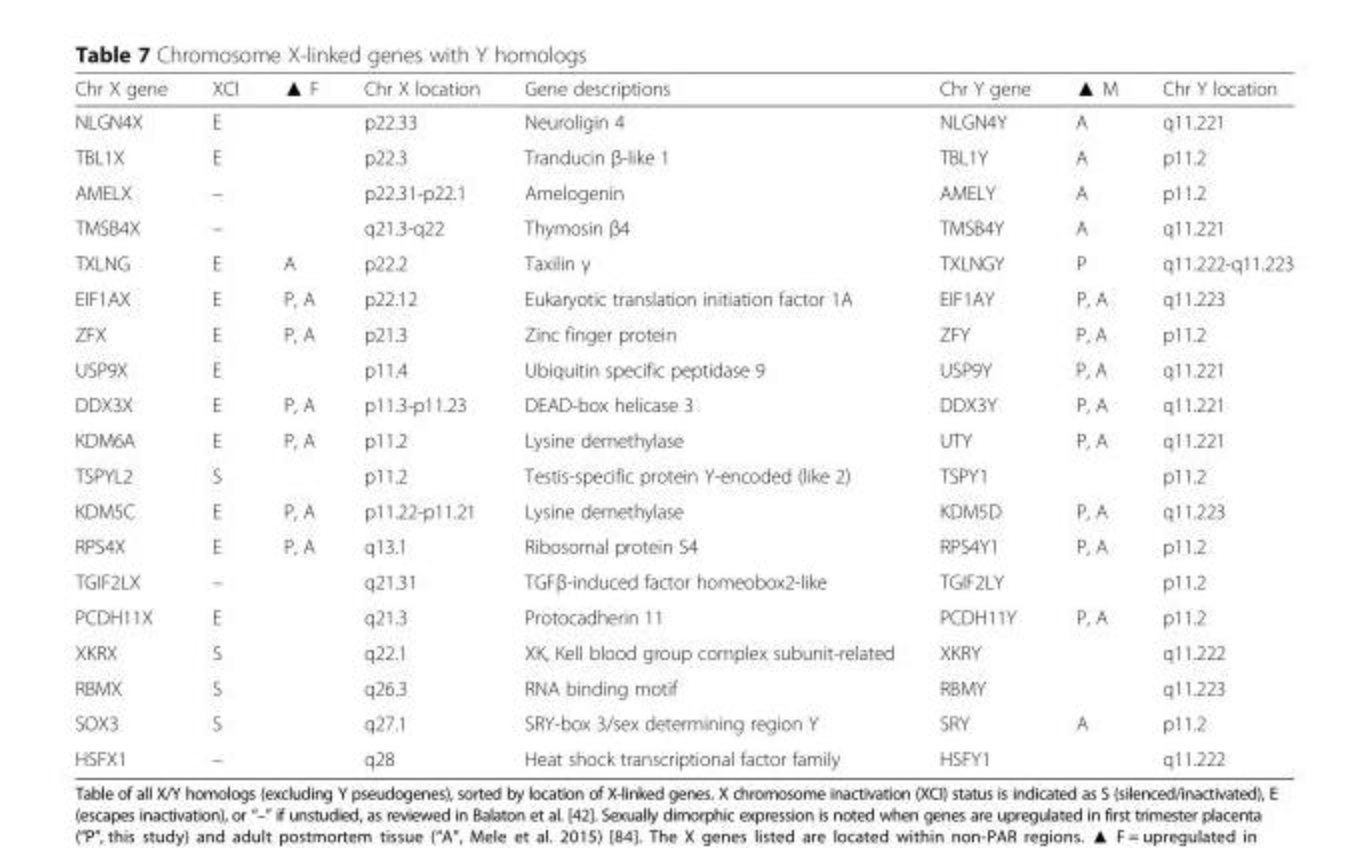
<table><thead><tr><td>Chr X gene</td><td>XCI</td><td>▲ F</td><td>Chr X location</td><td>Gene descriptions</td><td>Chr Y gene</td><td>▲ M</td><td>Chr Y location</td></tr></thead><tbody><tr><td>NLGN4X</td><td>E</td><td></td><td>p22.33</td><td>Neuroligin 4</td><td>NLGN4Y</td><td>A</td><td>q11.221</td></tr><tr><td>TBL1X</td><td>E</td><td></td><td>p22.3</td><td>Tranducin β-like 1</td><td>TBL1Y</td><td>A</td><td>p11.2</td></tr><tr><td>AMELX</td><td>–</td><td></td><td>p22.31-p22.1</td><td>Amelogenin</td><td>AMELY</td><td>A</td><td>p11.2</td></tr><tr><td>TMSB4X</td><td>–</td><td></td><td>q21.3-q22</td><td>Thymosin β4</td><td>TMSB4Y</td><td>A</td><td>q11.221</td></tr><tr><td>TXLNG</td><td>E</td><td>A</td><td>p22.2</td><td>Taxilin γ</td><td>TXLNGY</td><td>P</td><td>q11.222-q11.223</td></tr><tr><td>EIF1AX</td><td>E</td><td>P, A</td><td>p22.12</td><td>Eukaryotic translation initiation factor 1A</td><td>EIF1AY</td><td>P, A</td><td>q11.223</td></tr><tr><td>ZFX</td><td>E</td><td>P, A</td><td>p21.3</td><td>Zinc finger protein</td><td>ZFY</td><td>P, A</td><td>p11.2</td></tr><tr><td>USP9X</td><td>E</td><td></td><td>p11.4</td><td>Ubiquitin specific peptidase 9</td><td>USP9Y</td><td>P, A</td><td>q11.221</td></tr><tr><td>DDX3X</td><td>E</td><td>P, A</td><td>p11.3-p11.23</td><td>DEAD-box helicase 3</td><td>DDX3Y</td><td>P, A</td><td>q11.221</td></tr><tr><td>KDM6A</td><td>E</td><td>P, A</td><td>p11.2</td><td>Lysine demethylase</td><td>UTY</td><td>P, A</td><td>q11.221</td></tr><tr><td>TSPYL2</td><td>S</td><td></td><td>p11.2</td><td>Testis-specific protein Y-encoded (like 2)</td><td>TSPY1</td><td></td><td>p11.2</td></tr><tr><td>KDM5C</td><td>E</td><td>P, A</td><td>p11.22-p11.21</td><td>Lysine demethylase</td><td>KDM5D</td><td>P, A</td><td>q11.223</td></tr><tr><td>RPS4X</td><td>E</td><td>P, A</td><td>q13.1</td><td>Ribosomal protein S4</td><td>RPS4Y1</td><td>P, A</td><td>p11.2</td></tr><tr><td>TGIF2LX</td><td>–</td><td></td><td>q21.31</td><td>TGFβ-induced factor homeobox2-like</td><td>TGIF2LY</td><td></td><td>p11.2</td></tr><tr><td>PCDH11X</td><td>E</td><td></td><td>q21.3</td><td>Protocadherin 11</td><td>PCDH11Y</td><td>P, A</td><td>p11.2</td></tr><tr><td>XKRX</td><td>S</td><td></td><td>q22.1</td><td>XK, Kell blood group complex subunit-related</td><td>XKRY</td><td></td><td>q11.222</td></tr><tr><td>RBMX</td><td>S</td><td></td><td>q26.3</td><td>RNA binding motif</td><td>RBMY</td><td></td><td>q11.223</td></tr><tr><td>SOX3</td><td>S</td><td></td><td>q27.1</td><td>SRY-box 3/sex determining region Y</td><td>SRY</td><td>A</td><td>p11.2</td></tr><tr><td>HSFX1</td><td>–</td><td></td><td>q28</td><td>Heat shock transcriptional factor family</td><td>HSFY1</td><td></td><td>q11.222</td></tr></tbody></table>